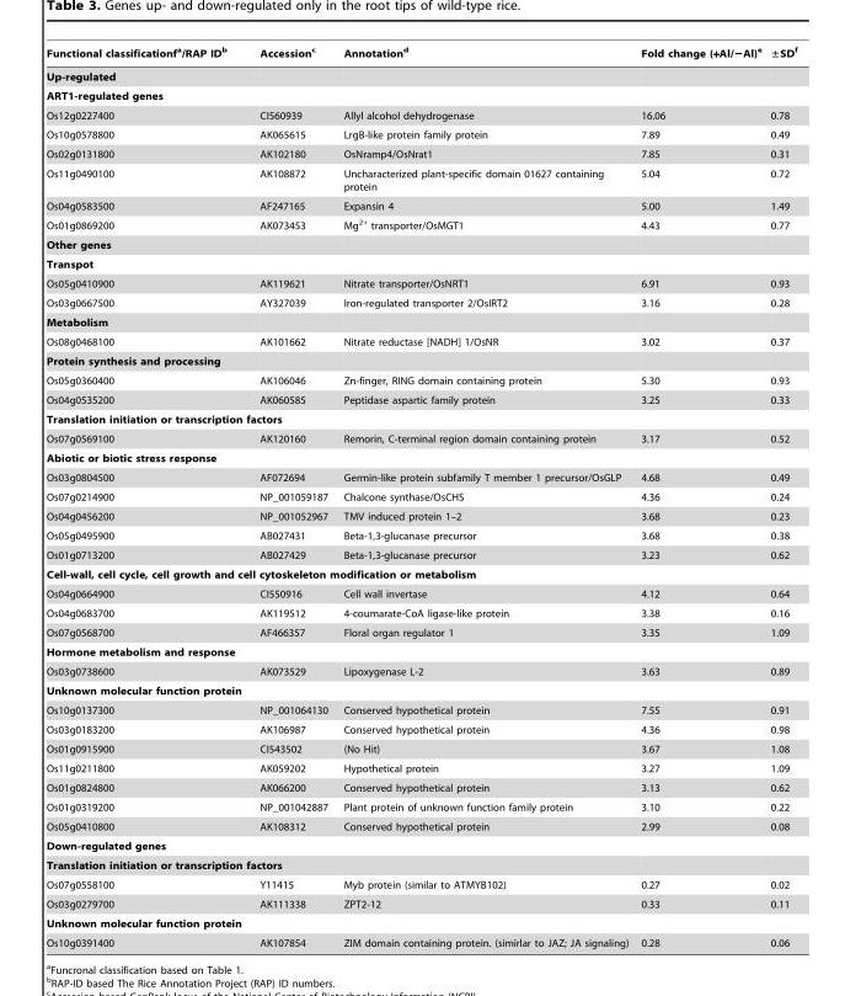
<table><thead><tr><td>Functional classificationf<sup>a</sup>/RAP ID<sup>b</sup></td><td>Accession<sup>c</sup></td><td>Annotation<sup>d</sup></td><td>Fold change (+Al/−Al)<sup>e</sup></td><td>±SD<sup>f</sup></td></tr></thead><tbody><tr><td colspan="5">Up-regulated</td></tr><tr><td colspan="5">ART1-regulated genes</td></tr><tr><td>Os12g0227400</td><td>CI560939</td><td>Allyl alcohol dehydrogenase</td><td>16.06</td><td>0.78</td></tr><tr><td>Os10g0578800</td><td>AK065615</td><td>LrgB-like protein family protein</td><td>7.89</td><td>0.49</td></tr><tr><td>Os02g0131800</td><td>AK102180</td><td>OsNramp4/OsNrat1</td><td>7.85</td><td>0.31</td></tr><tr><td>Os11g0490100</td><td>AK108872</td><td>Uncharacterized plant-specific domain 01627 containing protein</td><td>5.04</td><td>0.72</td></tr><tr><td>Os04g0583500</td><td>AF247165</td><td>Expansin 4</td><td>5.00</td><td>1.49</td></tr><tr><td>Os01g0869200</td><td>AK073453</td><td>Mg<sup>2+</sup> transporter/OsMGT1</td><td>4.43</td><td>0.77</td></tr><tr><td colspan="5">Other genes</td></tr><tr><td colspan="5">Transpot</td></tr><tr><td>Os05g0410900</td><td>AK119621</td><td>Nitrate transporter/OsNRT1</td><td>6.91</td><td>0.93</td></tr><tr><td>Os03g0667500</td><td>AY327039</td><td>Iron-regulated transporter 2/OsIRT2</td><td>3.16</td><td>0.28</td></tr><tr><td colspan="5">Metabolism</td></tr><tr><td>Os08g0468100</td><td>AK101662</td><td>Nitrate reductase [NADH] 1/OsNR</td><td>3.02</td><td>0.37</td></tr><tr><td colspan="5">Protein synthesis and processing</td></tr><tr><td>Os05g0360400</td><td>AK106046</td><td>Zn-finger, RING domain containing protein</td><td>5.30</td><td>0.93</td></tr><tr><td>Os04g0535200</td><td>AK060585</td><td>Peptidase aspartic family protein</td><td>3.25</td><td>0.33</td></tr><tr><td colspan="5">Translation initiation or transcription factors</td></tr><tr><td>Os07g0569100</td><td>AK120160</td><td>Remorin, C-terminal region domain containing protein</td><td>3.17</td><td>0.52</td></tr><tr><td colspan="5">Abiotic or biotic stress response</td></tr><tr><td>Os03g0804500</td><td>AF072694</td><td>Germin-like protein subfamily T member 1 precursor/OsGLP</td><td>4.68</td><td>0.49</td></tr><tr><td>Os07g0214900</td><td>NP_001059187</td><td>Chalcone synthase/OsCHS</td><td>4.36</td><td>0.24</td></tr><tr><td>Os04g0456200</td><td>NP_001052967</td><td>TMV induced protein 1–2</td><td>3.68</td><td>0.23</td></tr><tr><td>Os05g0495900</td><td>AB027431</td><td>Beta-1,3-glucanase precursor</td><td>3.68</td><td>0.38</td></tr><tr><td>Os01g0713200</td><td>AB027429</td><td>Beta-1,3-glucanase precursor</td><td>3.23</td><td>0.62</td></tr><tr><td colspan="5">Cell-wall, cell cycle, cell growth and cell cytoskeleton modification or metabolism</td></tr><tr><td>Os04g0664900</td><td>CI550916</td><td>Cell wall invertase</td><td>4.12</td><td>0.64</td></tr><tr><td>Os04g0683700</td><td>AK119512</td><td>4-coumarate-CoA ligase-like protein</td><td>3.38</td><td>0.16</td></tr><tr><td>Os07g0568700</td><td>AF466357</td><td>Floral organ regulator 1</td><td>3.35</td><td>1.09</td></tr><tr><td colspan="5">Hormone metabolism and response</td></tr><tr><td>Os03g0738600</td><td>AK073529</td><td>Lipoxygenase L-2</td><td>3.63</td><td>0.89</td></tr><tr><td colspan="5">Unknown molecular function protein</td></tr><tr><td>Os10g0137300</td><td>NP_001064130</td><td>Conserved hypothetical protein</td><td>7.55</td><td>0.91</td></tr><tr><td>Os03g0183200</td><td>AK106987</td><td>Conserved hypothetical protein</td><td>4.36</td><td>0.98</td></tr><tr><td>Os01g0915900</td><td>CI543502</td><td>(No Hit)</td><td>3.67</td><td>1.08</td></tr><tr><td>Os11g0211800</td><td>AK059202</td><td>Hypothetical protein</td><td>3.27</td><td>1.09</td></tr><tr><td>Os01g0824800</td><td>AK066200</td><td>Conserved hypothetical protein</td><td>3.13</td><td>0.62</td></tr><tr><td>Os01g0319200</td><td>NP_001042887</td><td>Plant protein of unknown function family protein</td><td>3.10</td><td>0.22</td></tr><tr><td>Os05g0410800</td><td>AK108312</td><td>Conserved hypothetical protein</td><td>2.99</td><td>0.08</td></tr><tr><td colspan="5">Down-regulated genes</td></tr><tr><td colspan="5">Translation initiation or transcription factors</td></tr><tr><td>Os07g0558100</td><td>Y11415</td><td>Myb protein (similar to ATMYB102)</td><td>0.27</td><td>0.02</td></tr><tr><td>Os03g0279700</td><td>AK111338</td><td>ZPT2-12</td><td>0.33</td><td>0.11</td></tr><tr><td colspan="5">Unknown molecular function protein</td></tr><tr><td>Os10g0391400</td><td>AK107854</td><td>ZIM domain containing protein. (simirlar to JAZ; JA signaling)</td><td>0.28</td><td>0.06</td></tr></tbody></table>